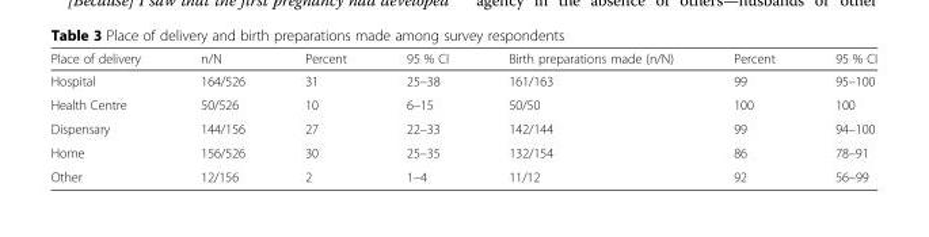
<table><thead><tr><td>Place of delivery</td><td>n/N</td><td>Percent</td><td>95 % CI</td><td>Birth preparations made (n/N)</td><td>Percent</td><td>95 % CI</td></tr></thead><tbody><tr><td>Hospital</td><td>164/526</td><td>31</td><td>25–38</td><td>161/163</td><td>99</td><td>95–100</td></tr><tr><td>Health Centre</td><td>50/526</td><td>10</td><td>6–15</td><td>50/50</td><td>100</td><td>100</td></tr><tr><td>Dispensary</td><td>144/156</td><td>27</td><td>22–33</td><td>142/144</td><td>99</td><td>94–100</td></tr><tr><td>Home</td><td>156/526</td><td>30</td><td>25–35</td><td>132/154</td><td>86</td><td>78–91</td></tr><tr><td>Other</td><td>12/156</td><td>2</td><td>1–4</td><td>11/12</td><td>92</td><td>56–99</td></tr></tbody></table>